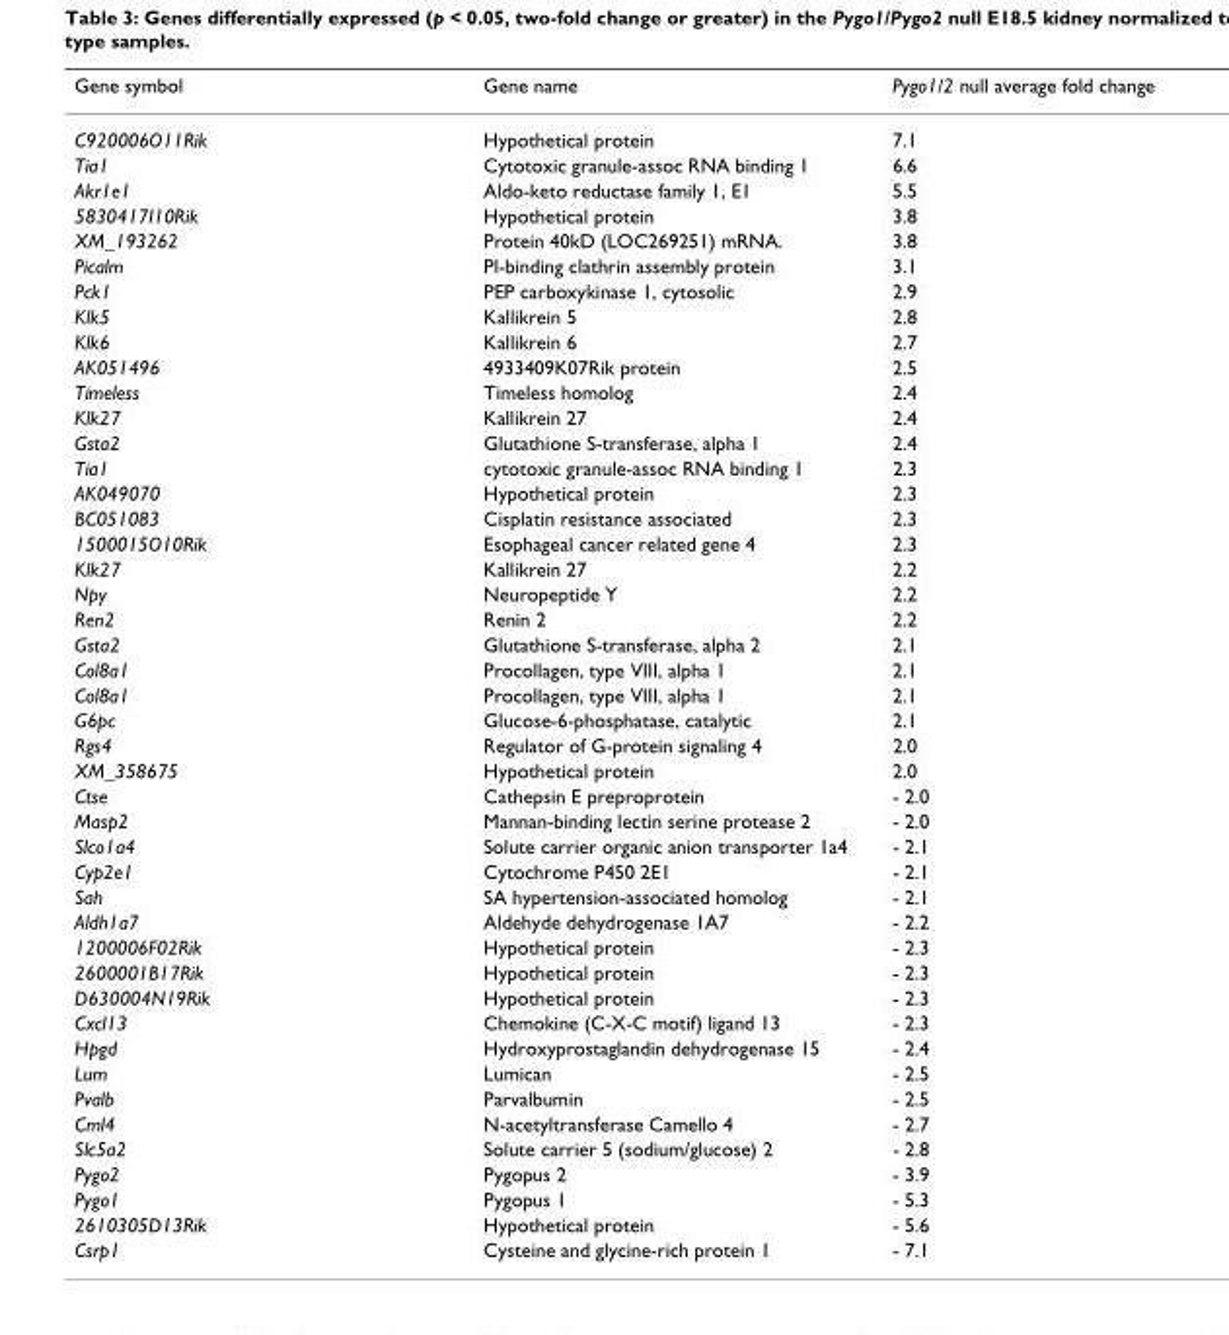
<table><thead><tr><td>Gene symbol</td><td>Gene name</td><td>Pygo1/2 null average fold change</td></tr></thead><tbody><tr><td>C920006O11Rik</td><td>Hypothetical protein</td><td>7.1</td></tr><tr><td>Tia1</td><td>Cytotoxic granule-assoc RNA binding 1</td><td>6.6</td></tr><tr><td>Akr1e1</td><td>Aldo-keto reductase family 1, E1</td><td>5.5</td></tr><tr><td>5830417I10Rik</td><td>Hypothetical protein</td><td>3.8</td></tr><tr><td>XM_193262</td><td>Protein 40kD (LOC269251) mRNA.</td><td>3.8</td></tr><tr><td>Picalm</td><td>Pl-binding clathrin assembly protein</td><td>3.1</td></tr><tr><td>Pck1</td><td>PEP carboxykinase 1, cytosolic</td><td>2.9</td></tr><tr><td>Klk5</td><td>Kallikrein 5</td><td>2.8</td></tr><tr><td>Klk6</td><td>Kallikrein 6</td><td>2.7</td></tr><tr><td>AK051496</td><td>4933409K07Rik protein</td><td>2.5</td></tr><tr><td>Timeless</td><td>Timeless homolog</td><td>2.4</td></tr><tr><td>Klk27</td><td>Kallikrein 27</td><td>2.4</td></tr><tr><td>Gsta2</td><td>Glutathione S-transferase, alpha 1</td><td>2.4</td></tr><tr><td>Tia1</td><td>cytotoxic granule-assoc RNA binding 1</td><td>2.3</td></tr><tr><td>AK049070</td><td>Hypothetical protein</td><td>2.3</td></tr><tr><td>BC051083</td><td>Cisplatin resistance associated</td><td>2.3</td></tr><tr><td>1500015O10Rik</td><td>Esophageal cancer related gene 4</td><td>2.3</td></tr><tr><td>Klk27</td><td>Kallikrein 27</td><td>2.2</td></tr><tr><td>Npy</td><td>Neuropeptide Y</td><td>2.2</td></tr><tr><td>Ren2</td><td>Renin 2</td><td>2.2</td></tr><tr><td>Gsta2</td><td>Glutathione S-transferase, alpha 2</td><td>2.1</td></tr><tr><td>Col8a1</td><td>Procollagen, type VIII, alpha 1</td><td>2.1</td></tr><tr><td>Col8a1</td><td>Procollagen, type VIII, alpha 1</td><td>2.1</td></tr><tr><td>G6pc</td><td>Glucose-6-phosphatase, catalytic</td><td>2.1</td></tr><tr><td>Rgs4</td><td>Regulator of G-protein signaling 4</td><td>2.0</td></tr><tr><td>XM_358675</td><td>Hypothetical protein</td><td>2.0</td></tr><tr><td>Ctse</td><td>Cathepsin E preproprotein</td><td>- 2.0</td></tr><tr><td>Masp2</td><td>Mannan-binding lectin serine protease 2</td><td>- 2.0</td></tr><tr><td>Slco1a4</td><td>Solute carrier organic anion transporter 1a4</td><td>- 2.1</td></tr><tr><td>Cyp2e1</td><td>Cytochrome P450 2E1</td><td>- 2.1</td></tr><tr><td>Sah</td><td>SA hypertension-associated homolog</td><td>- 2.1</td></tr><tr><td>Aldh1a7</td><td>Aldehyde dehydrogenase 1A7</td><td>- 2.2</td></tr><tr><td>1200006F02Rik</td><td>Hypothetical protein</td><td>- 2.3</td></tr><tr><td>2600001B17Rik</td><td>Hypothetical protein</td><td>- 2.3</td></tr><tr><td>D630004N19Rik</td><td>Hypothetical protein</td><td>- 2.3</td></tr><tr><td>Cxcl13</td><td>Chemokine (C-X-C motif) ligand 13</td><td>- 2.3</td></tr><tr><td>Hpgd</td><td>Hydroxyprostaglandin dehydrogenase 15</td><td>- 2.4</td></tr><tr><td>Lum</td><td>Lumican</td><td>- 2.5</td></tr><tr><td>Pvalb</td><td>Parvalbumin</td><td>- 2.5</td></tr><tr><td>Cml4</td><td>N-acetyltransferase Camello 4</td><td>- 2.7</td></tr><tr><td>Slc5a2</td><td>Solute carrier 5 (sodium/glucose) 2</td><td>- 2.8</td></tr><tr><td>Pygo2</td><td>Pygopus 2</td><td>- 3.9</td></tr><tr><td>Pygo1</td><td>Pygopus 1</td><td>- 5.3</td></tr><tr><td>2610305D13Rik</td><td>Hypothetical protein</td><td>- 5.6</td></tr><tr><td>Csrp1</td><td>Cysteine and glycine-rich protein 1</td><td>- 7.1</td></tr></tbody></table>